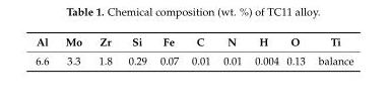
<table><thead><tr><td>Al</td><td>Mo</td><td>Zr</td><td>Si</td><td>Fe</td><td>C</td><td>N</td><td>H</td><td>O</td><td>Ti</td></tr></thead><tbody><tr><td>6.6</td><td>3.3</td><td>1.8</td><td>0.29</td><td>0.07</td><td>0.01</td><td>0.01</td><td>0.004</td><td>0.13</td><td>balance</td></tr></tbody></table>